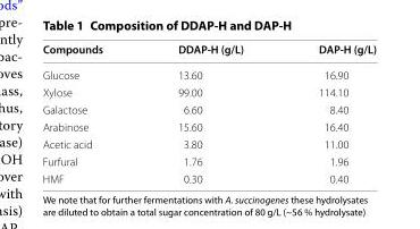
<table><thead><tr><td>Compounds</td><td>DDAP-H (g/L)</td><td>DAP-H (g/L)</td></tr></thead><tbody><tr><td>Glucose</td><td>13.60</td><td>16.90</td></tr><tr><td>Xylose</td><td>99.00</td><td>114.10</td></tr><tr><td>Galactose</td><td>6.60</td><td>8.40</td></tr><tr><td>Arabinose</td><td>15.60</td><td>16.40</td></tr><tr><td>Acetic acid</td><td>3.80</td><td>11.00</td></tr><tr><td>Furfural</td><td>1.76</td><td>1.96</td></tr><tr><td>HMF</td><td>0.30</td><td>0.40</td></tr></tbody></table>